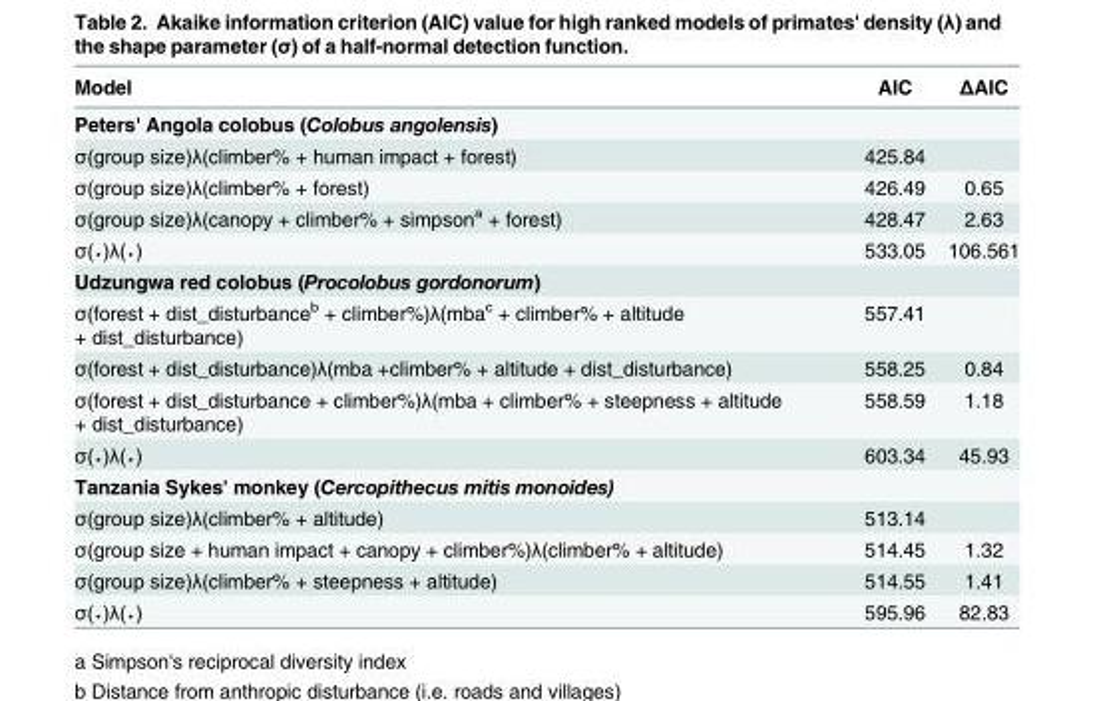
<table><thead><tr><td>Model</td><td>AIC</td><td>ΔAIC</td></tr></thead><tbody><tr><td colspan="3">Peters&#x27; Angola colobus (Colobus angolensis)</td></tr><tr><td>σ(group size)λ(climber% + human impact + forest)</td><td>425.84</td><td></td></tr><tr><td>σ(group size)λ(climber% + forest)</td><td>426.49</td><td>0.65</td></tr><tr><td>σ(group size)λ(canopy + climber% + simpson<sup>a</sup> + forest)</td><td>428.47</td><td>2.63</td></tr><tr><td>σ(۰)λ(۰)</td><td>533.05</td><td>106.561</td></tr><tr><td colspan="3">Udzungwa red colobus (Procolobus gordonorum)</td></tr><tr><td>σ(forest + dist_disturbance<sup>b</sup> + climber%)λ(mba<sup>c</sup> + climber% + altitude + dist_disturbance)</td><td>557.41</td><td></td></tr><tr><td>σ(forest + dist_disturbance)λ(mba +climber% + altitude + dist_disturbance)</td><td>558.25</td><td>0.84</td></tr><tr><td>σ(forest + dist_disturbance + climber%)λ(mba + climber% + steepness + altitude + dist_disturbance)</td><td>558.59</td><td>1.18</td></tr><tr><td>σ(۰)λ(۰)</td><td>603.34</td><td>45.93</td></tr><tr><td colspan="3">Tanzania Sykes&#x27; monkey (Cercopithecus mitis monoides)</td></tr><tr><td>σ(group size)λ(climber% + altitude)</td><td>513.14</td><td></td></tr><tr><td>σ(group size + human impact + canopy + climber%)λ(climber% + altitude)</td><td>514.45</td><td>1.32</td></tr><tr><td>σ(group size)λ(climber% + steepness + altitude)</td><td>514.55</td><td>1.41</td></tr><tr><td>σ(۰)λ(۰)</td><td>595.96</td><td>82.83</td></tr></tbody></table>